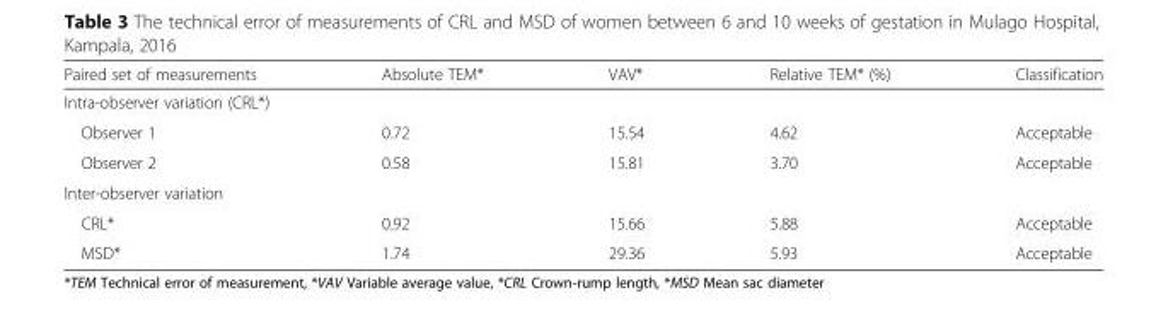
<table><thead><tr><td>Paired set of measurements</td><td>Absolute TEM*</td><td>VAV*</td><td>Relative TEM* (%)</td><td>Classification</td></tr></thead><tbody><tr><td colspan="5">Intra-observer variation (CRL*)</td></tr><tr><td>Observer 1</td><td>0.72</td><td>15.54</td><td>4.62</td><td>Acceptable</td></tr><tr><td>Observer 2</td><td>0.58</td><td>15.81</td><td>3.70</td><td>Acceptable</td></tr><tr><td colspan="5">Inter-observer variation</td></tr><tr><td>CRL*</td><td>0.92</td><td>15.66</td><td>5.88</td><td>Acceptable</td></tr><tr><td>MSD*</td><td>1.74</td><td>29.36</td><td>5.93</td><td>Acceptable</td></tr></tbody></table>